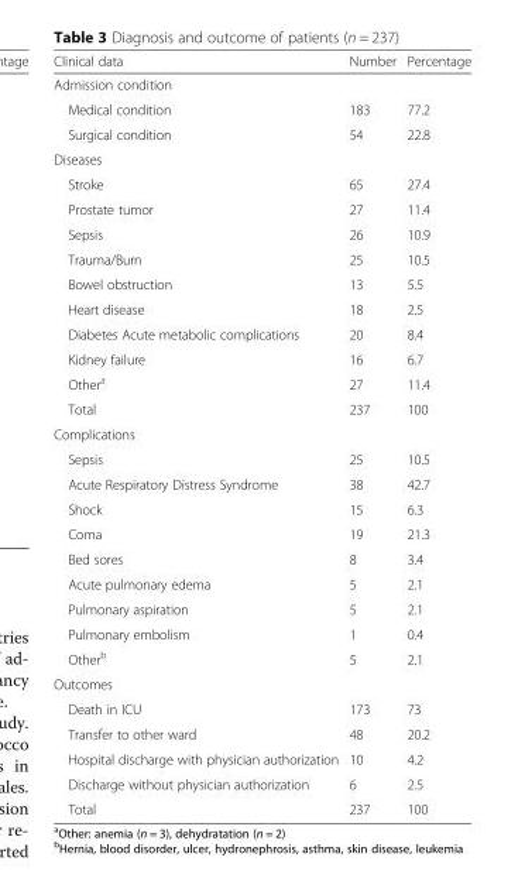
<table><thead><tr><td>Clinical data</td><td>Number</td><td>Percentage</td></tr></thead><tbody><tr><td colspan="3">Admission condition</td></tr><tr><td>Medical condition</td><td>183</td><td>77.2</td></tr><tr><td>Surgical condition</td><td>54</td><td>22.8</td></tr><tr><td colspan="3">Diseases</td></tr><tr><td>Stroke</td><td>65</td><td>27.4</td></tr><tr><td>Prostate tumor</td><td>27</td><td>11.4</td></tr><tr><td>Sepsis</td><td>26</td><td>10.9</td></tr><tr><td>Trauma/Burn</td><td>25</td><td>10.5</td></tr><tr><td>Bowel obstruction</td><td>13</td><td>5.5</td></tr><tr><td>Heart disease</td><td>18</td><td>2.5</td></tr><tr><td>Diabetes Acute metabolic complications</td><td>20</td><td>8.4</td></tr><tr><td>Kidney failure</td><td>16</td><td>6.7</td></tr><tr><td>Other<sup>a</sup></td><td>27</td><td>11.4</td></tr><tr><td>Total</td><td>237</td><td>100</td></tr><tr><td colspan="3">Complications</td></tr><tr><td>Sepsis</td><td>25</td><td>10.5</td></tr><tr><td>Acute Respiratory Distress Syndrome</td><td>38</td><td>42.7</td></tr><tr><td>Shock</td><td>15</td><td>6.3</td></tr><tr><td>Coma</td><td>19</td><td>21.3</td></tr><tr><td>Bed sores</td><td>8</td><td>3.4</td></tr><tr><td>Acute pulmonary edema</td><td>5</td><td>2.1</td></tr><tr><td>Pulmonary aspiration</td><td>5</td><td>2.1</td></tr><tr><td>Pulmonary embolism</td><td>1</td><td>0.4</td></tr><tr><td>Other<sup>b</sup></td><td>5</td><td>2.1</td></tr><tr><td colspan="3">Outcomes</td></tr><tr><td>Death in ICU</td><td>173</td><td>73</td></tr><tr><td>Transfer to other ward</td><td>48</td><td>20.2</td></tr><tr><td>Hospital discharge with physician authorization</td><td>10</td><td>4.2</td></tr><tr><td>Discharge without physician authorization</td><td>6</td><td>2.5</td></tr><tr><td>Total</td><td>237</td><td>100</td></tr></tbody></table>